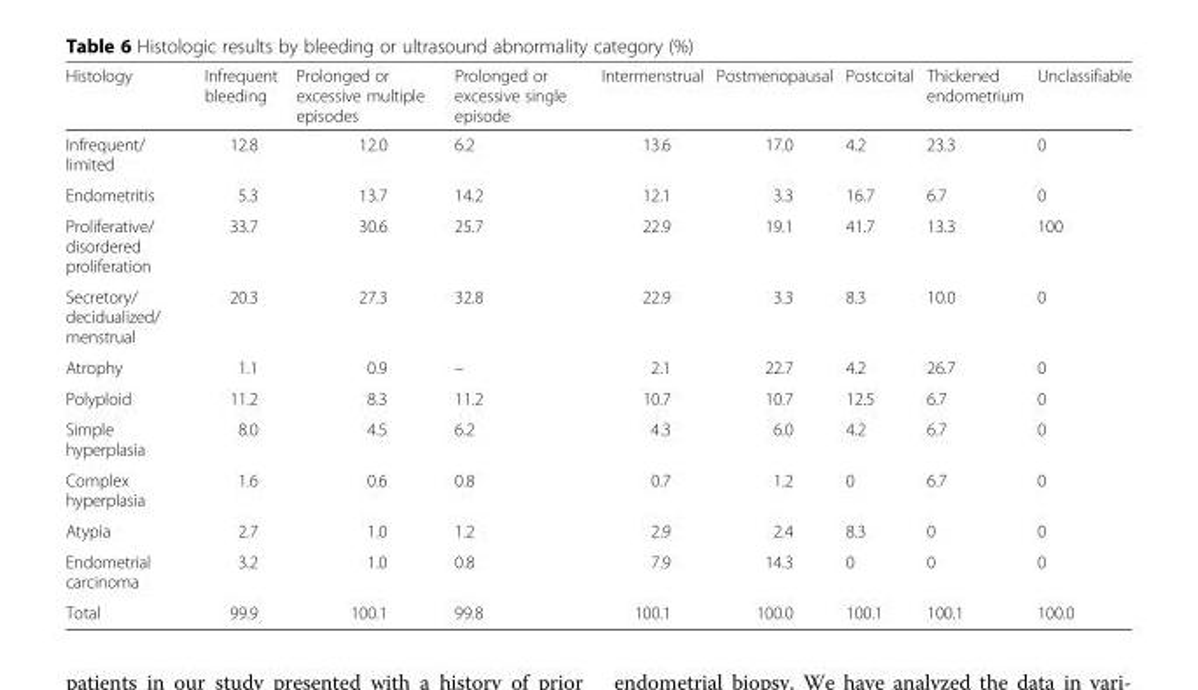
<table><thead><tr><td>Histology</td><td>Infrequent bleeding</td><td>Prolonged or excessive multiple episodes</td><td>Prolonged or excessive single episode</td><td>Intermenstrual</td><td>Postmenopausal</td><td>Postcoital</td><td>Thickened endometrium</td><td>Unclassifiable</td></tr></thead><tbody><tr><td>Infrequent/ limited</td><td>12.8</td><td>12.0</td><td>6.2</td><td>13.6</td><td>17.0</td><td>4.2</td><td>23.3</td><td>0</td></tr><tr><td>Endometritis</td><td>5.3</td><td>13.7</td><td>14.2</td><td>12.1</td><td>3.3</td><td>16.7</td><td>6.7</td><td>0</td></tr><tr><td>Proliferative/ disordered proliferation</td><td>33.7</td><td>30.6</td><td>25.7</td><td>22.9</td><td>19.1</td><td>41.7</td><td>13.3</td><td>100</td></tr><tr><td>Secretory/ decidualized/ menstrual</td><td>20.3</td><td>27.3</td><td>32.8</td><td>22.9</td><td>3.3</td><td>8.3</td><td>10.0</td><td>0</td></tr><tr><td>Atrophy</td><td>1.1</td><td>0.9</td><td>–</td><td>2.1</td><td>22.7</td><td>4.2</td><td>26.7</td><td>0</td></tr><tr><td>Polyploid</td><td>11.2</td><td>8.3</td><td>11.2</td><td>10.7</td><td>10.7</td><td>12.5</td><td>6.7</td><td>0</td></tr><tr><td>Simple hyperplasia</td><td>8.0</td><td>4.5</td><td>6.2</td><td>4.3</td><td>6.0</td><td>4.2</td><td>6.7</td><td>0</td></tr><tr><td>Complex hyperplasia</td><td>1.6</td><td>0.6</td><td>0.8</td><td>0.7</td><td>1.2</td><td>0</td><td>6.7</td><td>0</td></tr><tr><td>Atypia</td><td>2.7</td><td>1.0</td><td>1.2</td><td>2.9</td><td>2.4</td><td>8.3</td><td>0</td><td>0</td></tr><tr><td>Endometrial carcinoma</td><td>3.2</td><td>1.0</td><td>0.8</td><td>7.9</td><td>14.3</td><td>0</td><td>0</td><td>0</td></tr><tr><td>Total</td><td>99.9</td><td>100.1</td><td>99.8</td><td>100.1</td><td>100.0</td><td>100.1</td><td>100.1</td><td>100.0</td></tr></tbody></table>